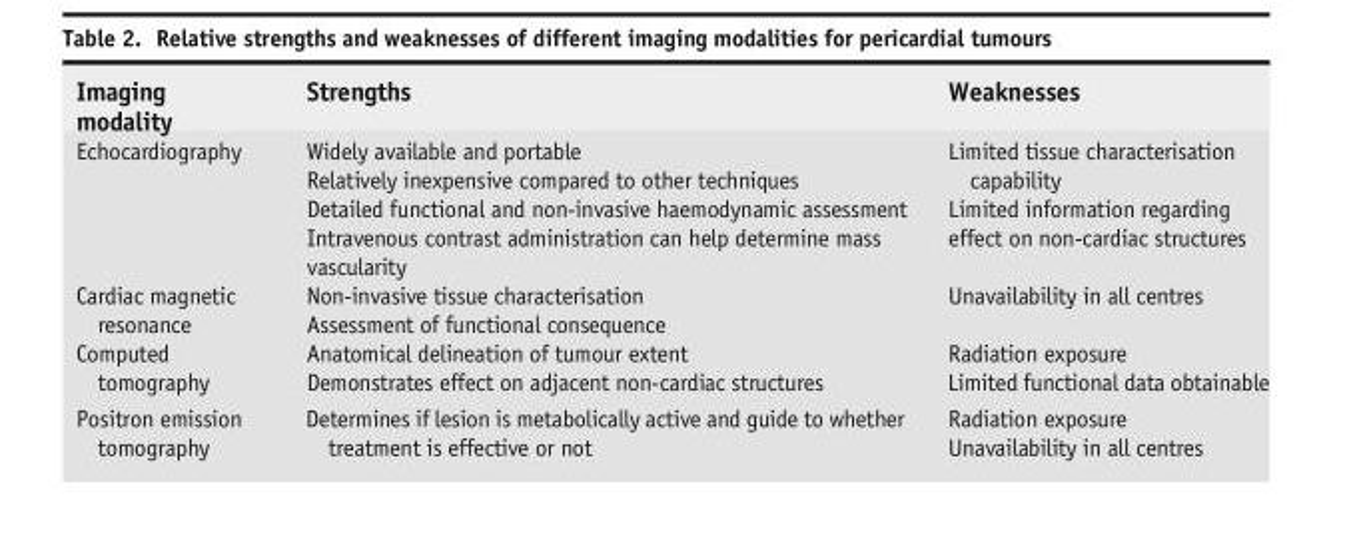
<table><thead><tr><td>Imaging modality</td><td>Strengths</td><td>Weaknesses</td></tr></thead><tbody><tr><td>Echocardiography</td><td>Widely available and portable Relatively inexpensive compared to other techniques Detailed functional and non-invasive haemodynamic assessment Intravenous contrast administration can help determine mass vascularity</td><td>Limited tissue characterisation capability Limited information regarding effect on non-cardiac structures</td></tr><tr><td>Cardiac magnetic resonance</td><td>Non-invasive tissue characterisation Assessment of functional consequence</td><td>Unavailability in all centres</td></tr><tr><td>Computed tomography</td><td>Anatomical delineation of tumour extent Demonstrates effect on adjacent non-cardiac structures</td><td>Radiation exposure Limited functional data obtainable</td></tr><tr><td>Positron emission tomography</td><td>Determines if lesion is metabolically active and guide to whether treatment is effective or not</td><td>Radiation exposure Unavailability in all centres</td></tr></tbody></table>